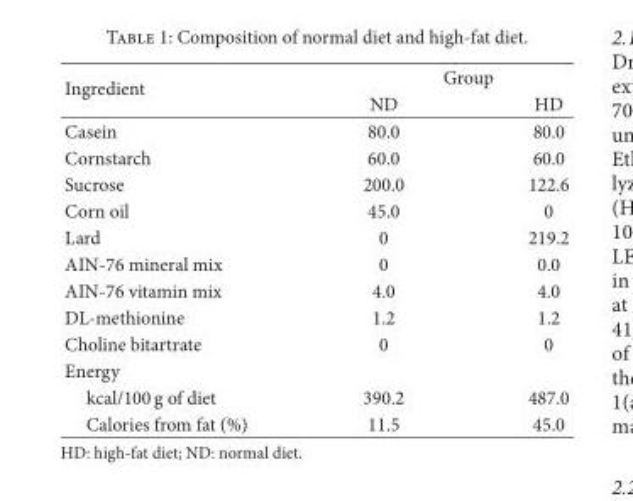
<table><thead><tr><td rowspan="2">Ingredient</td><td colspan="2">Group</td></tr><tr><td>ND</td><td>HD</td></tr></thead><tbody><tr><td>Casein</td><td>80.0</td><td>80.0</td></tr><tr><td>Cornstarch</td><td>60.0</td><td>60.0</td></tr><tr><td>Sucrose</td><td>200.0</td><td>122.6</td></tr><tr><td>Corn oil</td><td>45.0</td><td>0</td></tr><tr><td>Lard</td><td>0</td><td>219.2</td></tr><tr><td>AIN-76 mineral mix</td><td>0</td><td>0.0</td></tr><tr><td>AIN-76 vitamin mix</td><td>4.0</td><td>4.0</td></tr><tr><td>DL-methionine</td><td>1.2</td><td>1.2</td></tr><tr><td>Choline bitartrate</td><td>0</td><td>0</td></tr><tr><td colspan="3">Energy</td></tr><tr><td>kcal/100 g of diet</td><td>390.2</td><td>487.0</td></tr><tr><td>Calories from fat (%)</td><td>11.5</td><td>45.0</td></tr></tbody></table>